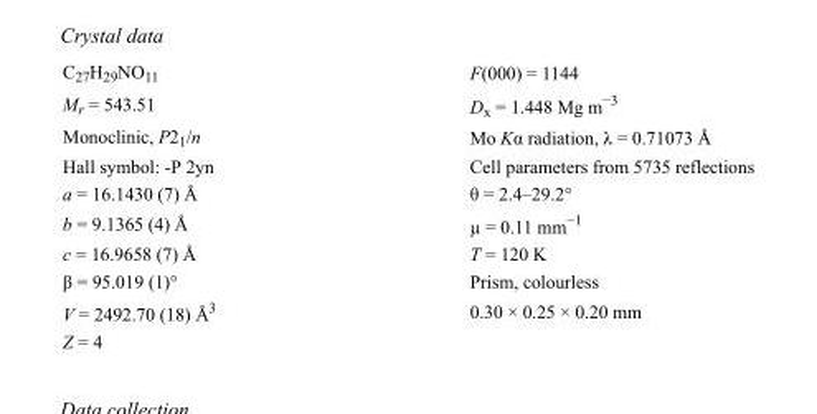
<table><tbody><tr><td>C<sub>27</sub>H<sub>29</sub>NO<sub>11</sub></td><td>F(000) = 1144</td></tr><tr><td>M<sub>r</sub> = 543.51</td><td>D<sub>x</sub> = 1.448 Mg m<sup>−3</sup></td></tr><tr><td>Monoclinic, P2<sub>1</sub>/n</td><td>Mo Kα radiation, λ = 0.71073 Å</td></tr><tr><td>Hall symbol: -P 2yn</td><td>Cell parameters from 5735 reflections</td></tr><tr><td>a = 16.1430 (7) Å</td><td>θ = 2.4–29.2°</td></tr><tr><td>b = 9.1365 (4) Å</td><td>µ = 0.11 mm<sup>−1</sup></td></tr><tr><td>c = 16.9658 (7) Å</td><td>T = 120 K</td></tr><tr><td>β = 95.019 (1)°</td><td>Prism, colourless</td></tr><tr><td>V = 2492.70 (18) Å<sup>3</sup></td><td>0.30 × 0.25 × 0.20 mm</td></tr><tr><td>Z = 4</td><td></td></tr></tbody></table>